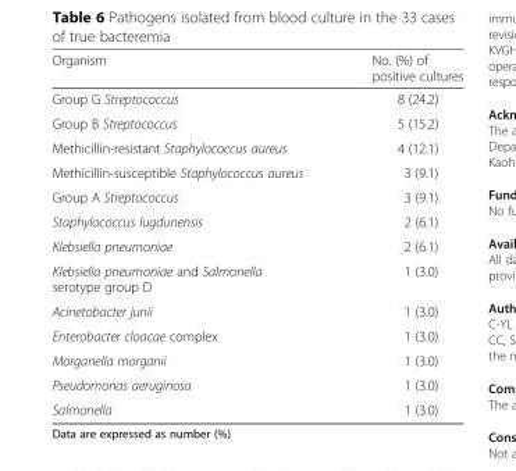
<table><thead><tr><td>Organism</td><td>No. (%) of positive cultures</td></tr></thead><tbody><tr><td>Group G Streptococcus</td><td>8 (24.2)</td></tr><tr><td>Group B Streptococcus</td><td>5 (15.2)</td></tr><tr><td>Methicillin-resistant Staphylococcus aureus</td><td>4 (12.1)</td></tr><tr><td>Methicillin-susceptible Staphylococcus aureus</td><td>3 (9.1)</td></tr><tr><td>Group A Streptococcus</td><td>3 (9.1)</td></tr><tr><td>Staphylococcus lugdunensis</td><td>2 (6.1)</td></tr><tr><td>Klebsiella pneumoniae</td><td>2 (6.1)</td></tr><tr><td>Klebsiella pneumoniae and Salmonella serotype group D</td><td>1 (3.0)</td></tr><tr><td>Acinetobacter junii</td><td>1 (3.0)</td></tr><tr><td>Enterobacter cloacae complex</td><td>1 (3.0)</td></tr><tr><td>Morganella morganii</td><td>1 (3.0)</td></tr><tr><td>Pseudomonas aeruginosa</td><td>1 (3.0)</td></tr><tr><td>Salmonella</td><td>1 (3.0)</td></tr></tbody></table>